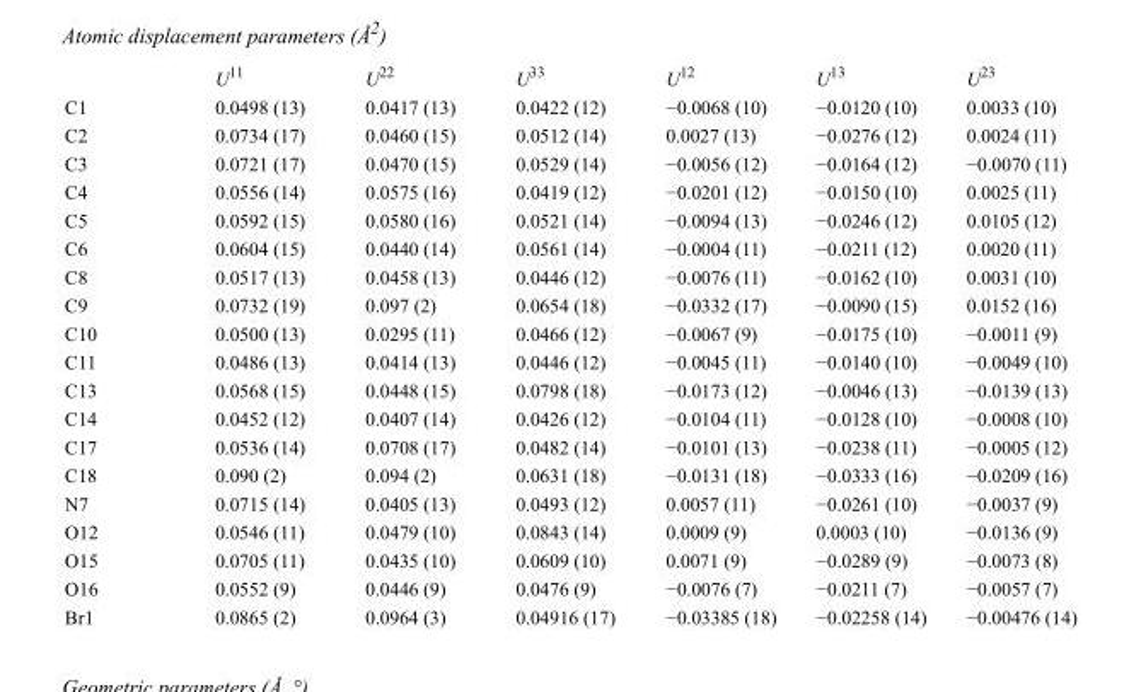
<table><thead><tr><td></td><td>U<sup>11</sup></td><td>U<sup>22</sup></td><td>U<sup>33</sup></td><td>U<sup>12</sup></td><td>U<sup>13</sup></td><td>U<sup>23</sup></td></tr></thead><tbody><tr><td>C1</td><td>0.0498 (13)</td><td>0.0417 (13)</td><td>0.0422 (12)</td><td>−0.0068 (10)</td><td>−0.0120 (10)</td><td>0.0033 (10)</td></tr><tr><td>C2</td><td>0.0734 (17)</td><td>0.0460 (15)</td><td>0.0512 (14)</td><td>0.0027 (13)</td><td>−0.0276 (12)</td><td>0.0024 (11)</td></tr><tr><td>C3</td><td>0.0721 (17)</td><td>0.0470 (15)</td><td>0.0529 (14)</td><td>−0.0056 (12)</td><td>−0.0164 (12)</td><td>−0.0070 (11)</td></tr><tr><td>C4</td><td>0.0556 (14)</td><td>0.0575 (16)</td><td>0.0419 (12)</td><td>−0.0201 (12)</td><td>−0.0150 (10)</td><td>0.0025 (11)</td></tr><tr><td>C5</td><td>0.0592 (15)</td><td>0.0580 (16)</td><td>0.0521 (14)</td><td>−0.0094 (13)</td><td>−0.0246 (12)</td><td>0.0105 (12)</td></tr><tr><td>C6</td><td>0.0604 (15)</td><td>0.0440 (14)</td><td>0.0561 (14)</td><td>−0.0004 (11)</td><td>−0.0211 (12)</td><td>0.0020 (11)</td></tr><tr><td>C8</td><td>0.0517 (13)</td><td>0.0458 (13)</td><td>0.0446 (12)</td><td>−0.0076 (11)</td><td>−0.0162 (10)</td><td>0.0031 (10)</td></tr><tr><td>C9</td><td>0.0732 (19)</td><td>0.097 (2)</td><td>0.0654 (18)</td><td>−0.0332 (17)</td><td>−0.0090 (15)</td><td>0.0152 (16)</td></tr><tr><td>C10</td><td>0.0500 (13)</td><td>0.0295 (11)</td><td>0.0466 (12)</td><td>−0.0067 (9)</td><td>−0.0175 (10)</td><td>−0.0011 (9)</td></tr><tr><td>C11</td><td>0.0486 (13)</td><td>0.0414 (13)</td><td>0.0446 (12)</td><td>−0.0045 (11)</td><td>−0.0140 (10)</td><td>−0.0049 (10)</td></tr><tr><td>C13</td><td>0.0568 (15)</td><td>0.0448 (15)</td><td>0.0798 (18)</td><td>−0.0173 (12)</td><td>−0.0046 (13)</td><td>−0.0139 (13)</td></tr><tr><td>C14</td><td>0.0452 (12)</td><td>0.0407 (14)</td><td>0.0426 (12)</td><td>−0.0104 (11)</td><td>−0.0128 (10)</td><td>−0.0008 (10)</td></tr><tr><td>C17</td><td>0.0536 (14)</td><td>0.0708 (17)</td><td>0.0482 (14)</td><td>−0.0101 (13)</td><td>−0.0238 (11)</td><td>−0.0005 (12)</td></tr><tr><td>C18</td><td>0.090 (2)</td><td>0.094 (2)</td><td>0.0631 (18)</td><td>−0.0131 (18)</td><td>−0.0333 (16)</td><td>−0.0209 (16)</td></tr><tr><td>N7</td><td>0.0715 (14)</td><td>0.0405 (13)</td><td>0.0493 (12)</td><td>0.0057 (11)</td><td>−0.0261 (10)</td><td>−0.0037 (9)</td></tr><tr><td>O12</td><td>0.0546 (11)</td><td>0.0479 (10)</td><td>0.0843 (14)</td><td>0.0009 (9)</td><td>0.0003 (10)</td><td>−0.0136 (9)</td></tr><tr><td>O15</td><td>0.0705 (11)</td><td>0.0435 (10)</td><td>0.0609 (10)</td><td>0.0071 (9)</td><td>−0.0289 (9)</td><td>−0.0073 (8)</td></tr><tr><td>O16</td><td>0.0552 (9)</td><td>0.0446 (9)</td><td>0.0476 (9)</td><td>−0.0076 (7)</td><td>−0.0211 (7)</td><td>−0.0057 (7)</td></tr><tr><td>Br1</td><td>0.0865 (2)</td><td>0.0964 (3)</td><td>0.04916 (17)</td><td>−0.03385 (18)</td><td>−0.02258 (14)</td><td>−0.00476 (14)</td></tr></tbody></table>